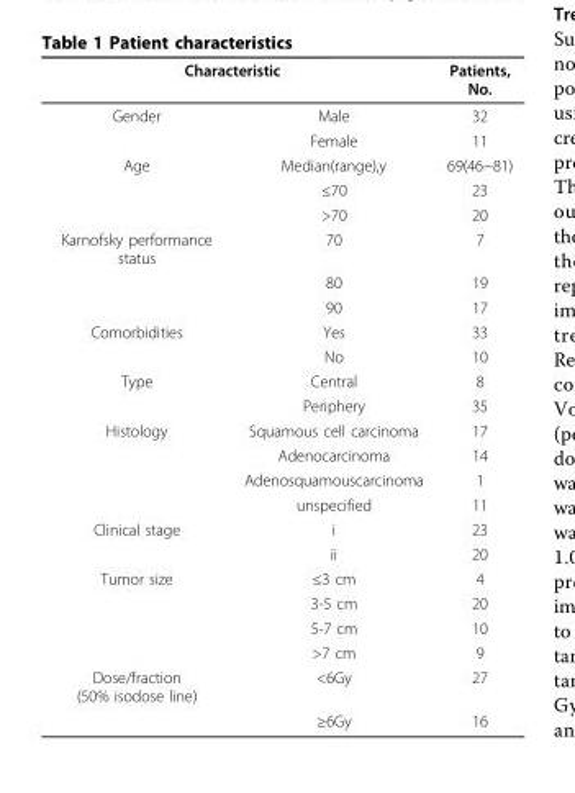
<table><thead><tr><td colspan="2">Characteristic</td><td rowspan="2">Patients, No. 32</td></tr><tr><td>Gender</td><td>Male</td></tr></thead><tbody><tr><td></td><td>Female</td><td>11</td></tr><tr><td rowspan="3">Age</td><td>Median(range),y</td><td>69(46~81)</td></tr><tr><td>≤70</td><td>23</td></tr><tr><td>&gt;70</td><td>20</td></tr><tr><td rowspan="3">Karnofsky performance status</td><td>70</td><td>7</td></tr><tr><td>80</td><td>19</td></tr><tr><td>90</td><td>17</td></tr><tr><td rowspan="2">Comorbidities</td><td>Yes</td><td>33</td></tr><tr><td>No</td><td>10</td></tr><tr><td rowspan="2">Type</td><td>Central</td><td>8</td></tr><tr><td>Periphery</td><td>35</td></tr><tr><td rowspan="4">Histology</td><td>Squamous cell carcinoma</td><td>17</td></tr><tr><td>Adenocarcinoma</td><td>14</td></tr><tr><td>Adenosquamouscarcinoma</td><td>1</td></tr><tr><td>unspecified</td><td>11</td></tr><tr><td rowspan="2">Clinical stage</td><td>i</td><td>23</td></tr><tr><td>ii</td><td>20</td></tr><tr><td rowspan="4">Tumor size</td><td>≤3 cm</td><td>4</td></tr><tr><td>3-5 cm</td><td>20</td></tr><tr><td>5-7 cm</td><td>10</td></tr><tr><td>&gt;7 cm</td><td>9</td></tr><tr><td rowspan="2">Dose/fraction (50% isodose line)</td><td>&lt;6Gy</td><td>27</td></tr><tr><td>≥6Gy</td><td>16</td></tr></tbody></table>